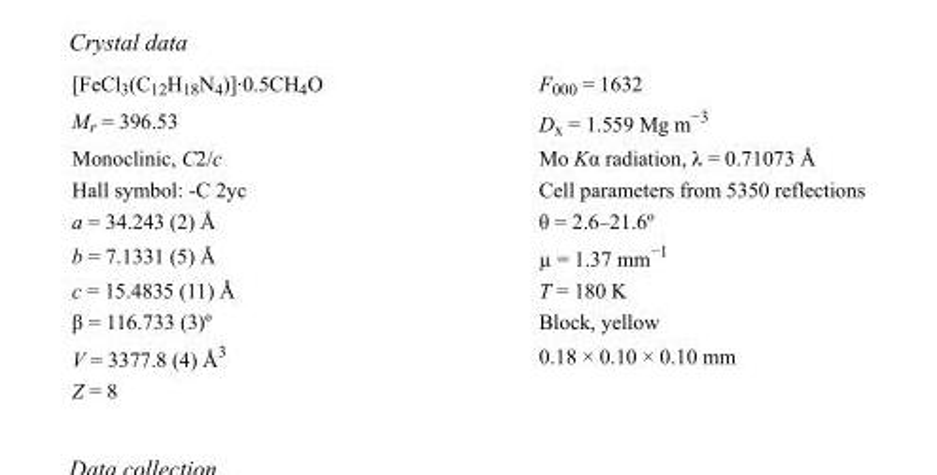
<table><tbody><tr><td>[FeCl<sub>3</sub>(C<sub>12</sub>H<sub>18</sub>N<sub>4</sub>)]·0.5CH<sub>4</sub>O</td><td>F000 = 1632</td></tr><tr><td>M<sub>r</sub> = 396.53</td><td>D<sub>x</sub> = 1.559 Mg m<sup>−3</sup></td></tr><tr><td>Monoclinic, C2/c</td><td>Mo Kα radiation, λ = 0.71073 Å</td></tr><tr><td>Hall symbol: -C 2yc</td><td>Cell parameters from 5350 reflections</td></tr><tr><td>a = 34.243 (2) Å</td><td>θ = 2.6–21.6º</td></tr><tr><td>b = 7.1331 (5) Å</td><td>µ = 1.37 mm<sup>−1</sup></td></tr><tr><td>c = 15.4835 (11) Å</td><td>T = 180 K</td></tr><tr><td>β = 116.733 (3)º</td><td>Block, yellow</td></tr><tr><td>V = 3377.8 (4) Å<sup>3</sup></td><td>0.18 × 0.10 × 0.10 mm</td></tr><tr><td>Z = 8</td><td></td></tr></tbody></table>